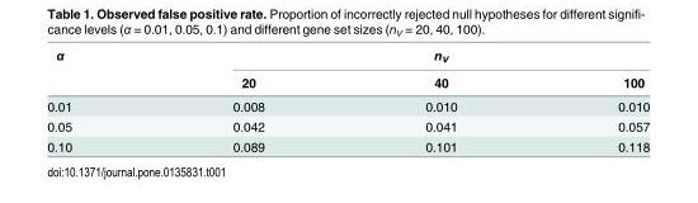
<table><thead><tr><td rowspan="2">α</td><td colspan="3">n<sub>V</sub></td></tr><tr><td>20</td><td>40</td><td>100</td></tr></thead><tbody><tr><td>0.01</td><td>0.008</td><td>0.010</td><td>0.010</td></tr><tr><td>0.05</td><td>0.042</td><td>0.041</td><td>0.057</td></tr><tr><td>0.10</td><td>0.089</td><td>0.101</td><td>0.118</td></tr></tbody></table>